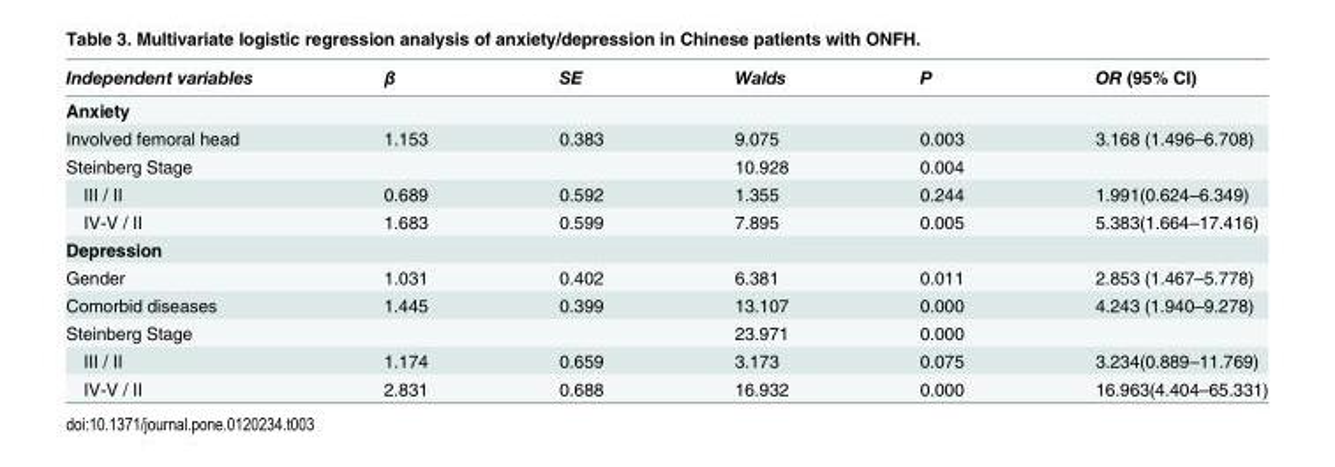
<table><thead><tr><td>Independent variables</td><td>β</td><td>SE</td><td>Walds</td><td>P</td><td>OR (95% CI)</td></tr></thead><tbody><tr><td colspan="6">Anxiety</td></tr><tr><td>Involved femoral head</td><td>1.153</td><td>0.383</td><td>9.075</td><td>0.003</td><td>3.168 (1.496–6.708)</td></tr><tr><td>Steinberg Stage</td><td></td><td></td><td>10.928</td><td>0.004</td><td></td></tr><tr><td>III / II</td><td>0.689</td><td>0.592</td><td>1.355</td><td>0.244</td><td>1.991(0.624–6.349)</td></tr><tr><td>IV-V / II</td><td>1.683</td><td>0.599</td><td>7.895</td><td>0.005</td><td>5.383(1.664–17.416)</td></tr><tr><td colspan="6">Depression</td></tr><tr><td>Gender</td><td>1.031</td><td>0.402</td><td>6.381</td><td>0.011</td><td>2.853 (1.467–5.778)</td></tr><tr><td>Comorbid diseases</td><td>1.445</td><td>0.399</td><td>13.107</td><td>0.000</td><td>4.243 (1.940–9.278)</td></tr><tr><td>Steinberg Stage</td><td></td><td></td><td>23.971</td><td>0.000</td><td></td></tr><tr><td>III / II</td><td>1.174</td><td>0.659</td><td>3.173</td><td>0.075</td><td>3.234(0.889–11.769)</td></tr><tr><td>IV-V / II</td><td>2.831</td><td>0.688</td><td>16.932</td><td>0.000</td><td>16.963(4.404–65.331)</td></tr></tbody></table>